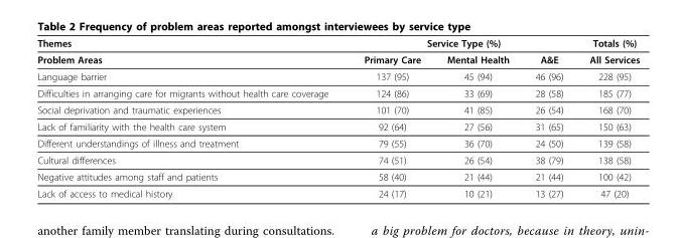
<table><thead><tr><td rowspan="2">Themes Problem Areas</td><td colspan="3">Service Type (%)</td><td rowspan="2">Totals (%) All Services</td></tr><tr><td>Primary Care</td><td>Mental Health</td><td>A&amp;E</td></tr></thead><tbody><tr><td>Language barrier</td><td>137 (95)</td><td>45 (94)</td><td>46 (96)</td><td>228 (95)</td></tr><tr><td>Difficulties in arranging care for migrants without health care coverage</td><td>124 (86)</td><td>33 (69)</td><td>28 (58)</td><td>185 (77)</td></tr><tr><td>Social deprivation and traumatic experiences</td><td>101 (70)</td><td>41 (85)</td><td>26 (54)</td><td>168 (70)</td></tr><tr><td>Lack of familiarity with the health care system</td><td>92 (64)</td><td>27 (56)</td><td>31 (65)</td><td>150 (63)</td></tr><tr><td>Different understandings of illness and treatment</td><td>79 (55)</td><td>36 (70)</td><td>24 (50)</td><td>139 (58)</td></tr><tr><td>Cultural differences</td><td>74 (51)</td><td>26 (54)</td><td>38 (79)</td><td>138 (58)</td></tr><tr><td>Negative attitudes among staff and patients</td><td>58 (40)</td><td>21 (44)</td><td>21 (44)</td><td>100 (42)</td></tr><tr><td>Lack of access to medical history</td><td>24 (17)</td><td>10 (21)</td><td>13 (27)</td><td>47 (20)</td></tr></tbody></table>